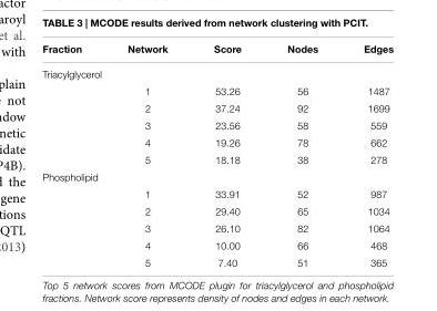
<table><thead><tr><td>Fraction</td><td>Network</td><td>Score</td><td>Nodes</td><td>Edges</td></tr></thead><tbody><tr><td colspan="5">Triacylglycerol</td></tr><tr><td></td><td>1</td><td>53.26</td><td>56</td><td>1487</td></tr><tr><td></td><td>2</td><td>37.24</td><td>92</td><td>1699</td></tr><tr><td></td><td>3</td><td>23.56</td><td>58</td><td>559</td></tr><tr><td></td><td>4</td><td>19.26</td><td>78</td><td>662</td></tr><tr><td></td><td>5</td><td>18.18</td><td>38</td><td>278</td></tr><tr><td colspan="5">Phospholipid</td></tr><tr><td></td><td>1</td><td>33.91</td><td>52</td><td>987</td></tr><tr><td></td><td>2</td><td>29.40</td><td>65</td><td>1034</td></tr><tr><td></td><td>3</td><td>26.10</td><td>82</td><td>1064</td></tr><tr><td></td><td>4</td><td>10.00</td><td>66</td><td>468</td></tr><tr><td></td><td>5</td><td>7.40</td><td>51</td><td>365</td></tr></tbody></table>